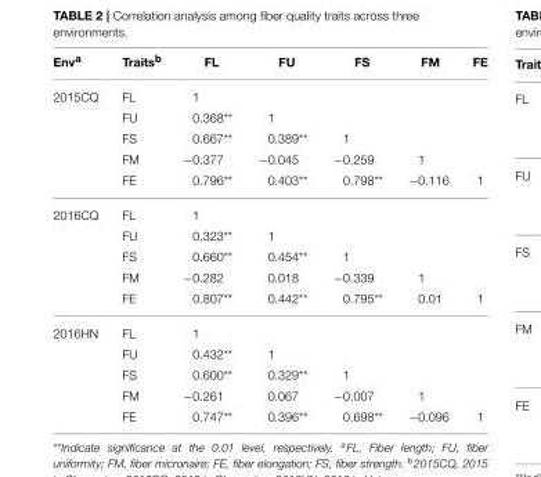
<table><thead><tr><td>Env<sup>a</sup></td><td>Traits<sup>b</sup></td><td>FL</td><td>FU</td><td>FS</td><td>FM</td><td>FE</td></tr></thead><tbody><tr><td rowspan="5">2015CQ</td><td>FL</td><td>1</td><td></td><td></td><td></td><td></td></tr><tr><td>FU</td><td>0.368**</td><td>1</td><td></td><td></td><td></td></tr><tr><td>FS</td><td>0.667**</td><td>0.389**</td><td>1</td><td></td><td></td></tr><tr><td>FM</td><td>−0.377</td><td>−0.045</td><td>−0.259</td><td>1</td><td></td></tr><tr><td>FE</td><td>0.796**</td><td>0.403**</td><td>0.798**</td><td>−0.116</td><td>1</td></tr><tr><td rowspan="5">2016CQ</td><td>FL</td><td>1</td><td></td><td></td><td></td><td></td></tr><tr><td>FU</td><td>0.323**</td><td>1</td><td></td><td></td><td></td></tr><tr><td>FS</td><td>0.660**</td><td>0.454**</td><td>1</td><td></td><td></td></tr><tr><td>FM</td><td>−0.282</td><td>0.018</td><td>−0.339</td><td>1</td><td></td></tr><tr><td>FE</td><td>0.807**</td><td>0.442**</td><td>0.795**</td><td>0.01</td><td>1</td></tr><tr><td rowspan="5">2016HN</td><td>FL</td><td>1</td><td></td><td></td><td></td><td></td></tr><tr><td>FU</td><td>0.432**</td><td>1</td><td></td><td></td><td></td></tr><tr><td>FS</td><td>0.600**</td><td>0.329**</td><td>1</td><td></td><td></td></tr><tr><td>FM</td><td>−0.261</td><td>0.067</td><td>−0.007</td><td>1</td><td></td></tr><tr><td>FE</td><td>0.747**</td><td>0.396**</td><td>0.698**</td><td>−0.096</td><td>1</td></tr></tbody></table>